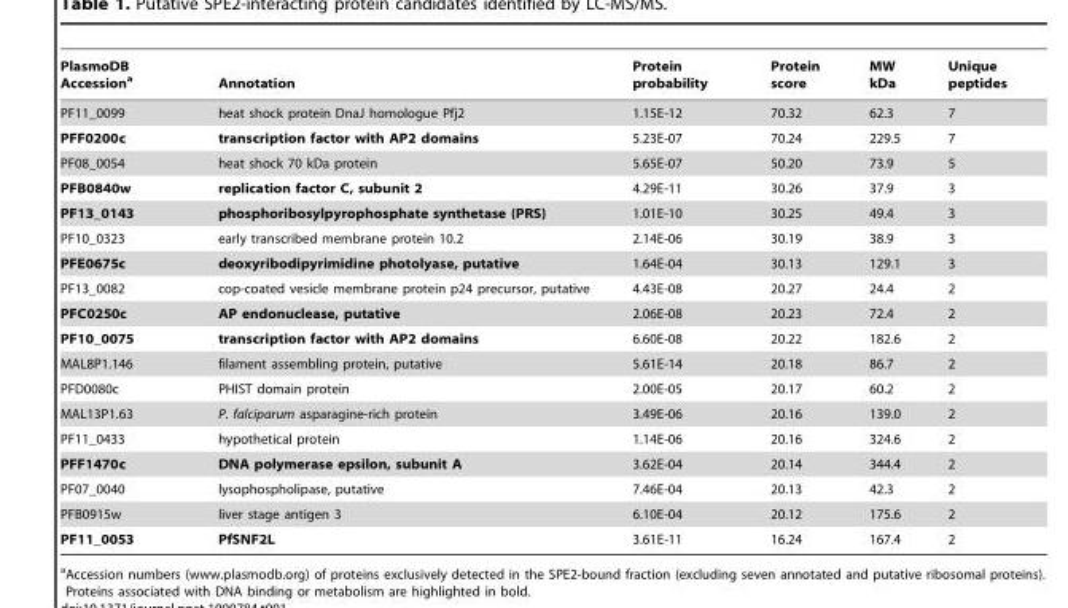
<table><thead><tr><td>PlasmoDB Accession<sup>a</sup></td><td>Annotation</td><td>Protein probability</td><td>Protein score</td><td>MW kDa</td><td>Unique peptides</td></tr></thead><tbody><tr><td>PF11_0099</td><td>heat shock protein DnaJ homologue Pfj2</td><td>1.15E-12</td><td>70.32</td><td>62.3</td><td>7</td></tr><tr><td>PFF0200c</td><td>transcription factor with AP2 domains</td><td>5.23E-07</td><td>70.24</td><td>229.5</td><td>7</td></tr><tr><td>PF08_0054</td><td>heat shock 70 kDa protein</td><td>5.65E-07</td><td>50.20</td><td>73.9</td><td>5</td></tr><tr><td>PFB0840w</td><td>replication factor C, subunit 2</td><td>4.29E-11</td><td>30.26</td><td>37.9</td><td>3</td></tr><tr><td>PF13_0143</td><td>phosphoribosylpyrophosphate synthetase (PRS)</td><td>1.01E-10</td><td>30.25</td><td>49.4</td><td>3</td></tr><tr><td>PF10_0323</td><td>early transcribed membrane protein 10.2</td><td>2.14E-06</td><td>30.19</td><td>38.9</td><td>3</td></tr><tr><td>PFE0675c</td><td>deoxyribodipyrimidine photolyase, putative</td><td>1.64E-04</td><td>30.13</td><td>129.1</td><td>3</td></tr><tr><td>PF13_0082</td><td>cop-coated vesicle membrane protein p24 precursor, putative</td><td>4.43E-08</td><td>20.27</td><td>24.4</td><td>2</td></tr><tr><td>PFC0250c</td><td>AP endonuclease, putative</td><td>2.06E-08</td><td>20.23</td><td>72.4</td><td>2</td></tr><tr><td>PF10_0075</td><td>transcription factor with AP2 domains</td><td>6.60E-08</td><td>20.22</td><td>182.6</td><td>2</td></tr><tr><td>MAL8P1.146</td><td>filament assembling protein, putative</td><td>5.61E-14</td><td>20.18</td><td>86.7</td><td>2</td></tr><tr><td>PFD0080c</td><td>PHIST domain protein</td><td>2.00E-05</td><td>20.17</td><td>60.2</td><td>2</td></tr><tr><td>MAL13P1.63</td><td>P. falciparum asparagine-rich protein</td><td>3.49E-06</td><td>20.16</td><td>139.0</td><td>2</td></tr><tr><td>PF11_0433</td><td>hypothetical protein</td><td>1.14E-06</td><td>20.16</td><td>324.6</td><td>2</td></tr><tr><td>PFF1470c</td><td>DNA polymerase epsilon, subunit A</td><td>3.62E-04</td><td>20.14</td><td>344.4</td><td>2</td></tr><tr><td>PF07_0040</td><td>lysophospholipase, putative</td><td>7.46E-04</td><td>20.13</td><td>42.3</td><td>2</td></tr><tr><td>PFB0915w</td><td>liver stage antigen 3</td><td>6.10E-04</td><td>20.12</td><td>175.6</td><td>2</td></tr><tr><td>PF11_0053</td><td>PfSNF2L</td><td>3.61E-11</td><td>16.24</td><td>167.4</td><td>2</td></tr></tbody></table>